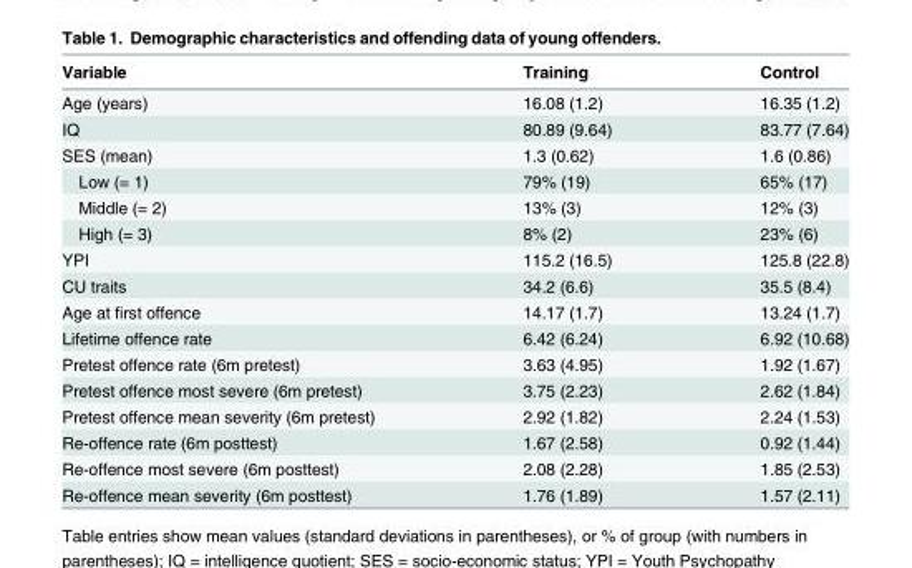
<table><thead><tr><td>Variable</td><td>Training</td><td>Control</td></tr></thead><tbody><tr><td>Age (years)</td><td>16.08 (1.2)</td><td>16.35 (1.2)</td></tr><tr><td>IQ</td><td>80.89 (9.64)</td><td>83.77 (7.64)</td></tr><tr><td>SES (mean)</td><td>1.3 (0.62)</td><td>1.6 (0.86)</td></tr><tr><td>Low (= 1)</td><td>79% (19)</td><td>65% (17)</td></tr><tr><td>Middle (= 2)</td><td>13% (3)</td><td>12% (3)</td></tr><tr><td>High (= 3)</td><td>8% (2)</td><td>23% (6)</td></tr><tr><td>YPI</td><td>115.2 (16.5)</td><td>125.8 (22.8)</td></tr><tr><td>CU traits</td><td>34.2 (6.6)</td><td>35.5 (8.4)</td></tr><tr><td>Age at first offence</td><td>14.17 (1.7)</td><td>13.24 (1.7)</td></tr><tr><td>Lifetime offence rate</td><td>6.42 (6.24)</td><td>6.92 (10.68)</td></tr><tr><td>Pretest offence rate (6m pretest)</td><td>3.63 (4.95)</td><td>1.92 (1.67)</td></tr><tr><td>Pretest offence most severe (6m pretest)</td><td>3.75 (2.23)</td><td>2.62 (1.84)</td></tr><tr><td>Pretest offence mean severity (6m pretest)</td><td>2.92 (1.82)</td><td>2.24 (1.53)</td></tr><tr><td>Re-offence rate (6m posttest)</td><td>1.67 (2.58)</td><td>0.92 (1.44)</td></tr><tr><td>Re-offence most severe (6m posttest)</td><td>2.08 (2.28)</td><td>1.85 (2.53)</td></tr><tr><td>Re-offence mean severity (6m posttest)</td><td>1.76 (1.89)</td><td>1.57 (2.11)</td></tr></tbody></table>